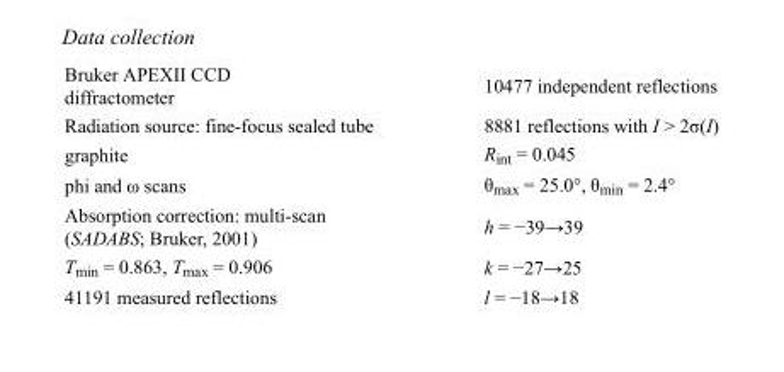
<table><tbody><tr><td>Bruker APEXII CCD diffractometer</td><td>10477 independent reflections</td></tr><tr><td>Radiation source: fine-focus sealed tube</td><td>8881 reflections with I &gt; 2σ(I)</td></tr><tr><td>graphite</td><td>R<sub>int</sub> = 0.045</td></tr><tr><td>phi and ω scans</td><td>θ<sub>max</sub> = 25.0°, θ<sub>min</sub> = 2.4°</td></tr><tr><td>Absorption correction: multi-scan (SADABS; Bruker, 2001)</td><td>h = −39→39</td></tr><tr><td>T<sub>min</sub> = 0.863, T<sub>max</sub> = 0.906</td><td>k = −27→25</td></tr><tr><td>41191 measured reflections</td><td>l = −18→18</td></tr></tbody></table>